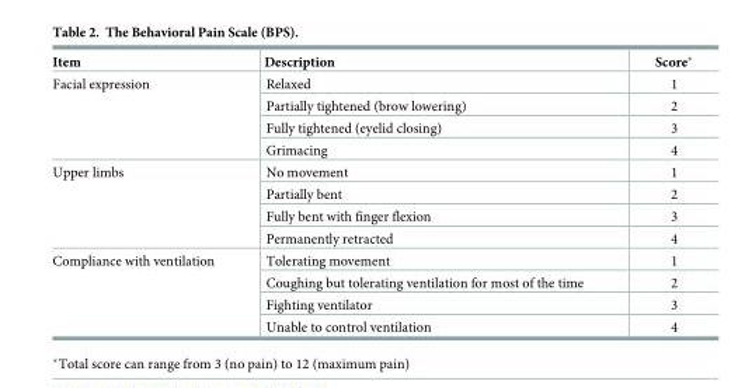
<table><thead><tr><td>Item</td><td>Description</td><td>Score*</td></tr></thead><tbody><tr><td rowspan="4">Facial expression</td><td>Relaxed</td><td>1</td></tr><tr><td>Partially tightened (brow lowering)</td><td>2</td></tr><tr><td>Fully tightened (eyelid closing)</td><td>3</td></tr><tr><td>Grimacing</td><td>4</td></tr><tr><td rowspan="4">Upper limbs</td><td>No movement</td><td>1</td></tr><tr><td>Partially bent</td><td>2</td></tr><tr><td>Fully bent with finger flexion</td><td>3</td></tr><tr><td>Permanently retracted</td><td>4</td></tr><tr><td rowspan="4">Compliance with ventilation</td><td>Tolerating movement</td><td>1</td></tr><tr><td>Coughing but tolerating ventilation for most of the time</td><td>2</td></tr><tr><td>Fighting ventilator</td><td>3</td></tr><tr><td>Unable to control ventilation</td><td>4</td></tr></tbody></table>